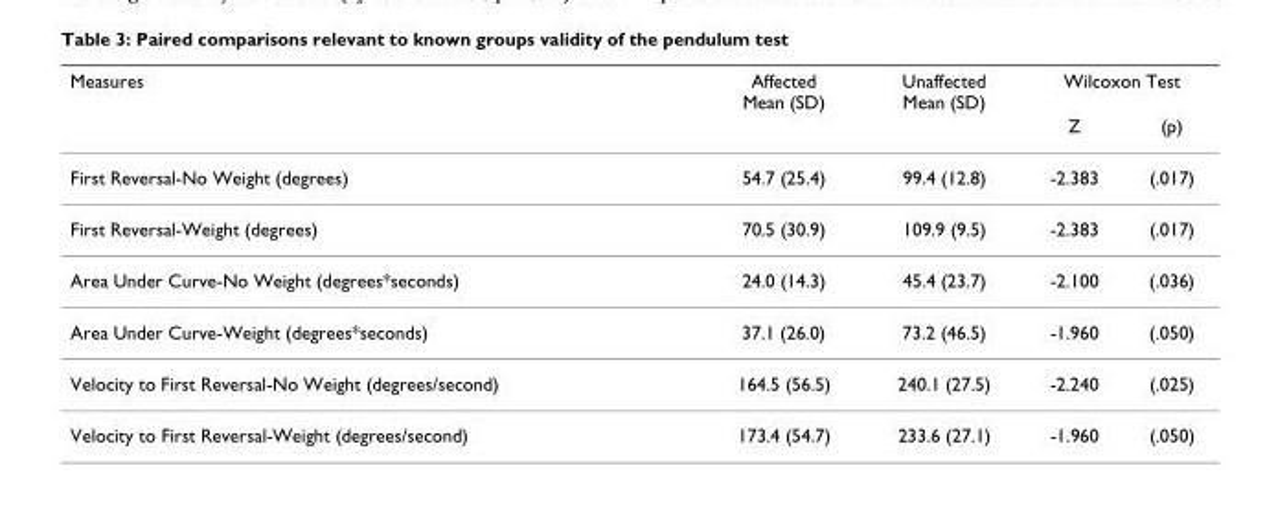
<table><thead><tr><td rowspan="2">Measures</td><td rowspan="2">Affected Mean (SD)</td><td rowspan="2">Unaffected Mean (SD)</td><td colspan="2">Wilcoxon Test</td></tr><tr><td>Z</td><td>(p)</td></tr></thead><tbody><tr><td>First Reversal-No Weight (degrees)</td><td>54.7 (25.4)</td><td>99.4 (12.8)</td><td>-2.383</td><td>(.017)</td></tr><tr><td>First Reversal-Weight (degrees)</td><td>70.5 (30.9)</td><td>109.9 (9.5)</td><td>-2.383</td><td>(.017)</td></tr><tr><td>Area Under Curve-No Weight (degrees*seconds)</td><td>24.0 (14.3)</td><td>45.4 (23.7)</td><td>-2.100</td><td>(.036)</td></tr><tr><td>Area Under Curve-Weight (degrees*seconds)</td><td>37.1 (26.0)</td><td>73.2 (46.5)</td><td>-1.960</td><td>(.050)</td></tr><tr><td>Velocity to First Reversal-No Weight (degrees/second)</td><td>164.5 (56.5)</td><td>240.1 (27.5)</td><td>-2.240</td><td>(.025)</td></tr><tr><td>Velocity to First Reversal-Weight (degrees/second)</td><td>173.4 (54.7)</td><td>233.6 (27.1)</td><td>-1.960</td><td>(.050)</td></tr></tbody></table>